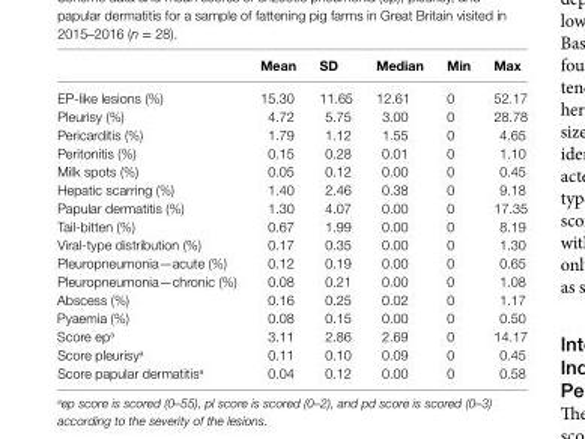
<table><thead><tr><td></td><td>Mean</td><td>sD</td><td>Median</td><td>Min</td><td>Max</td></tr></thead><tbody><tr><td>EP-like lesions (%)</td><td>15.30</td><td>11.65</td><td>12.61</td><td>0</td><td>52.17</td></tr><tr><td>Pleurisy (%)</td><td>4.72</td><td>5.75</td><td>3.00</td><td>0</td><td>28.78</td></tr><tr><td>Pericarditis (%)</td><td>1.79</td><td>1.12</td><td>1.55</td><td>0</td><td>4.65</td></tr><tr><td>Peritonitis (%)</td><td>0.15</td><td>0.28</td><td>0.01</td><td>0</td><td>1.10</td></tr><tr><td>Milk spots (%)</td><td>0.05</td><td>0.12</td><td>0.00</td><td>0</td><td>0.45</td></tr><tr><td>Hepatic scarring (%)</td><td>1.40</td><td>2.46</td><td>0.38</td><td>0</td><td>9.18</td></tr><tr><td>Papular dermatitis (%)</td><td>1.30</td><td>4.07</td><td>0.00</td><td>0</td><td>17.35</td></tr><tr><td>Tail-bitten (%)</td><td>0.67</td><td>1.99</td><td>0.00</td><td>0</td><td>8.19</td></tr><tr><td>Viral-type distribution (%)</td><td>0.17</td><td>0.35</td><td>0.00</td><td>0</td><td>1.30</td></tr><tr><td>Pleuropneumonia—acute (%)</td><td>0.12</td><td>0.19</td><td>0.00</td><td>0</td><td>0.65</td></tr><tr><td>Pleuropneumonia—chronic (%)</td><td>0.08</td><td>0.21</td><td>0.00</td><td>0</td><td>1.08</td></tr><tr><td>Abscess (%)</td><td>0.16</td><td>0.25</td><td>0.02</td><td>0</td><td>1.17</td></tr><tr><td>Pyaemia (%)</td><td>0.08</td><td>0.15</td><td>0.00</td><td>0</td><td>0.50</td></tr><tr><td>Score ep<sup>a</sup></td><td>3.11</td><td>2.86</td><td>2.69</td><td>0</td><td>14.17</td></tr><tr><td>Score pleurisy<sup>a</sup></td><td>0.11</td><td>0.10</td><td>0.09</td><td>0</td><td>0.45</td></tr><tr><td>Score papular dermatitis<sup>a</sup></td><td>0.04</td><td>0.12</td><td>0.00</td><td>0</td><td>0.58</td></tr></tbody></table>